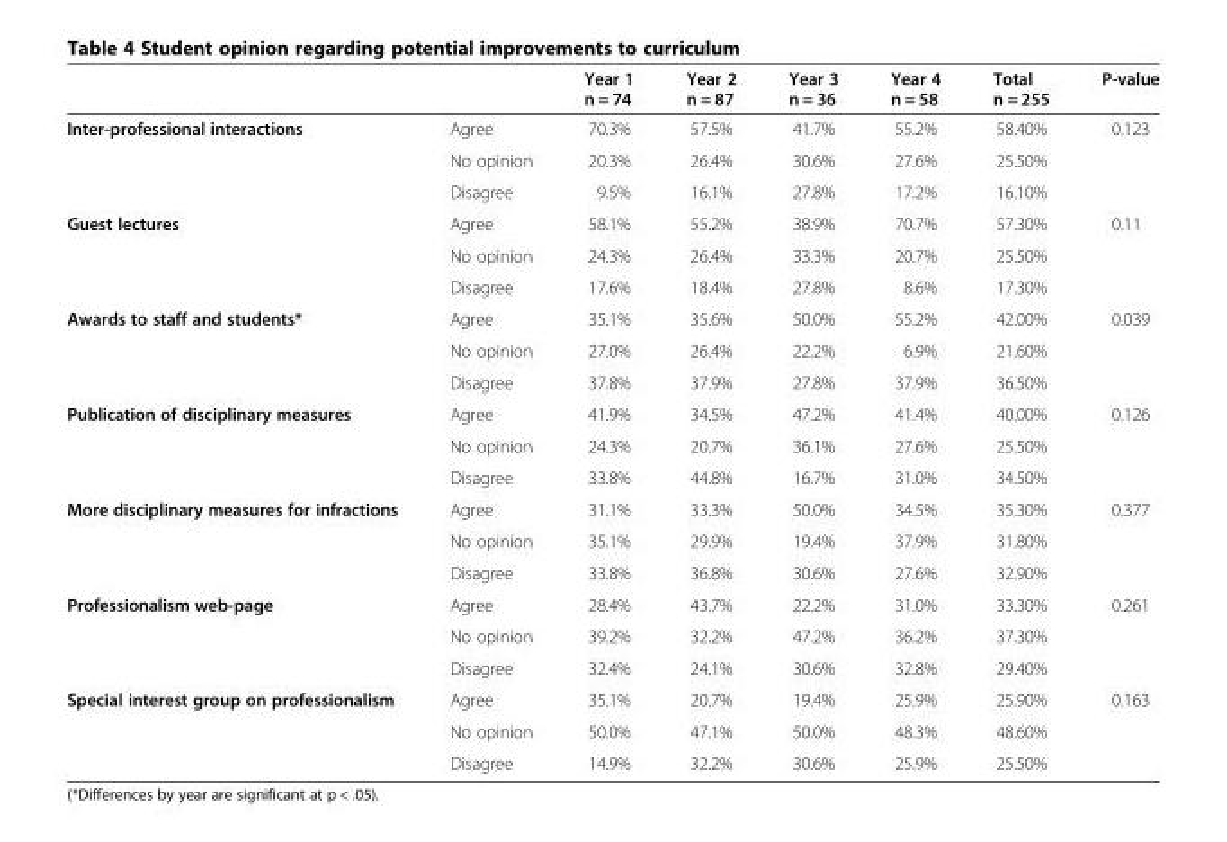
<table><thead><tr><td></td><td></td><td>Year 1 n = 74</td><td>Year 2 n = 87</td><td>Year 3 n = 36</td><td>Year 4 n = 58</td><td>Total n = 255</td><td>P-value</td></tr></thead><tbody><tr><td rowspan="3">Inter-professional interactions</td><td>Agree</td><td>70.3%</td><td>57.5%</td><td>41.7%</td><td>55.2%</td><td>58.40%</td><td>0.123</td></tr><tr><td>No opinion</td><td>20.3%</td><td>26.4%</td><td>30.6%</td><td>27.6%</td><td>25.50%</td><td></td></tr><tr><td>Disagree</td><td>9.5%</td><td>16.1%</td><td>27.8%</td><td>17.2%</td><td>16.10%</td><td></td></tr><tr><td rowspan="3">Guest lectures</td><td>Agree</td><td>58.1%</td><td>55.2%</td><td>38.9%</td><td>70.7%</td><td>57.30%</td><td>0.11</td></tr><tr><td>No opinion</td><td>24.3%</td><td>26.4%</td><td>33.3%</td><td>20.7%</td><td>25.50%</td><td></td></tr><tr><td>Disagree</td><td>17.6%</td><td>18.4%</td><td>27.8%</td><td>8.6%</td><td>17.30%</td><td></td></tr><tr><td rowspan="3">Awards to staff and students*</td><td>Agree</td><td>35.1%</td><td>35.6%</td><td>50.0%</td><td>55.2%</td><td>42.00%</td><td>0.039</td></tr><tr><td>No opinion</td><td>27.0%</td><td>26.4%</td><td>22.2%</td><td>6.9%</td><td>21.60%</td><td></td></tr><tr><td>Disagree</td><td>37.8%</td><td>37.9%</td><td>27.8%</td><td>37.9%</td><td>36.50%</td><td></td></tr><tr><td rowspan="3">Publication of disciplinary measures</td><td>Agree</td><td>41.9%</td><td>34.5%</td><td>47.2%</td><td>41.4%</td><td>40.00%</td><td>0.126</td></tr><tr><td>No opinion</td><td>24.3%</td><td>20.7%</td><td>36.1%</td><td>27.6%</td><td>25.50%</td><td></td></tr><tr><td>Disagree</td><td>33.8%</td><td>44.8%</td><td>16.7%</td><td>31.0%</td><td>34.50%</td><td></td></tr><tr><td rowspan="3">More disciplinary measures for infractions</td><td>Agree</td><td>31.1%</td><td>33.3%</td><td>50.0%</td><td>34.5%</td><td>35.30%</td><td>0.377</td></tr><tr><td>No opinion</td><td>35.1%</td><td>29.9%</td><td>19.4%</td><td>37.9%</td><td>31.80%</td><td></td></tr><tr><td>Disagree</td><td>33.8%</td><td>36.8%</td><td>30.6%</td><td>27.6%</td><td>32.90%</td><td></td></tr><tr><td rowspan="3">Professionalism web-page</td><td>Agree</td><td>28.4%</td><td>43.7%</td><td>22.2%</td><td>31.0%</td><td>33.30%</td><td>0.261</td></tr><tr><td>No opinion</td><td>39.2%</td><td>32.2%</td><td>47.2%</td><td>36.2%</td><td>37.30%</td><td></td></tr><tr><td>Disagree</td><td>32.4%</td><td>24.1%</td><td>30.6%</td><td>32.8%</td><td>29.40%</td><td></td></tr><tr><td rowspan="3">Special interest group on professionalism</td><td>Agree</td><td>35.1%</td><td>20.7%</td><td>19.4%</td><td>25.9%</td><td>25.90%</td><td>0.163</td></tr><tr><td>No opinion</td><td>50.0%</td><td>47.1%</td><td>50.0%</td><td>48.3%</td><td>48.60%</td><td></td></tr><tr><td>Disagree</td><td>14.9%</td><td>32.2%</td><td>30.6%</td><td>25.9%</td><td>25.50%</td><td></td></tr></tbody></table>